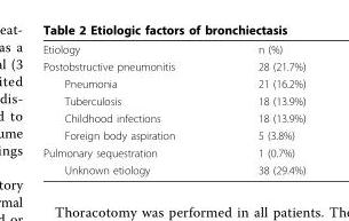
<table><tbody><tr><td>Etiology</td><td>n (%)</td></tr><tr><td>Postobstructive pneumonitis</td><td>28 (21.7%)</td></tr><tr><td>Pneumonia</td><td>21 (16.2%)</td></tr><tr><td>Tuberculosis</td><td>18 (13.9%)</td></tr><tr><td>Childhood infections</td><td>18 (13.9%)</td></tr><tr><td>Foreign body aspiration</td><td>5 (3.8%)</td></tr><tr><td>Pulmonary sequestration</td><td>1 (0.7%)</td></tr><tr><td>Unknown etiology</td><td>38 (29.4%)</td></tr></tbody></table>